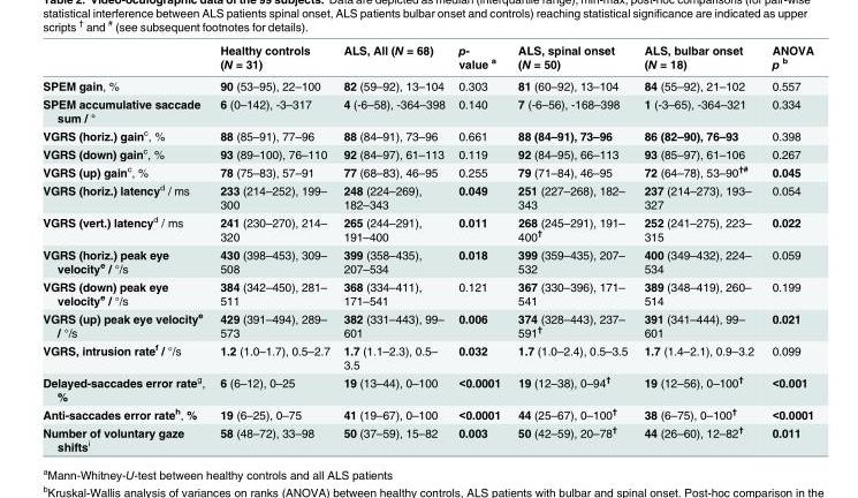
<table><thead><tr><td></td><td>Healthy controls (N = 31)</td><td>ALS, All (N = 68)</td><td>p- value <sup>a</sup></td><td>ALS, spinal onset (N = 50)</td><td>ALS, bulbar onset (N = 18)</td><td>ANOVA p <sup>b</sup></td></tr></thead><tbody><tr><td>SPEM gain, %</td><td>90 (53–95), 22–100</td><td>82 (59–92), 13–104</td><td>0.303</td><td>81 (60–92), 13–104</td><td>84 (55–92), 21–102</td><td>0.557</td></tr><tr><td>SPEM accumulative saccade sum / °</td><td>6 (0–142), -3–317</td><td>4 (-6–58), -364–398</td><td>0.140</td><td>7 (-6–56), -168–398</td><td>1 (-3–65), -364–321</td><td>0.334</td></tr><tr><td>VGRS (horiz.) gain<sup>c</sup>, %</td><td>88 (85–91), 77–96</td><td>88 (84–91), 73–96</td><td>0.661</td><td>88 (84–91), 73–96</td><td>86 (82–90), 76–93</td><td>0.398</td></tr><tr><td>VGRS (down) gain<sup>c</sup>, %</td><td>93 (89–100), 76–110</td><td>92 (84–97), 61–113</td><td>0.119</td><td>92 (84–95), 66–113</td><td>93 (85–97), 61–106</td><td>0.267</td></tr><tr><td>VGRS (up) gain<sup>c</sup>, %</td><td>78 (75–83), 57–91</td><td>77 (68–83), 46–95</td><td>0.255</td><td>79 (71–84), 46–95</td><td>72 (64–78), 53–90<sup>†#</sup></td><td>0.045</td></tr><tr><td>VGRS (horiz.) latency<sup>d</sup> / ms</td><td>233 (214–252), 199– 300</td><td>248 (224–269), 182–343</td><td>0.049</td><td>251 (227–268), 182– 343</td><td>237 (214–273), 193– 327</td><td>0.054</td></tr><tr><td>VGRS (vert.) latency<sup>d</sup> / ms</td><td>241 (230–270), 214– 320</td><td>265 (244–291), 191–400</td><td>0.011</td><td>268 (245–291), 191– 400<sup>†</sup></td><td>252 (241–275), 223– 315</td><td>0.022</td></tr><tr><td>VGRS (horiz.) peak eye velocity<sup>e</sup> / °/s</td><td>430 (398–453), 309– 508</td><td>399 (358–435), 207–534</td><td>0.018</td><td>399 (359–435), 207– 532</td><td>400 (349–432), 224– 534</td><td>0.059</td></tr><tr><td>VGRS (down) peak eye velocity<sup>e</sup> / °/s</td><td>384 (342–450), 281– 511</td><td>368 (334–411), 171–541</td><td>0.121</td><td>367 (330–396), 171– 541</td><td>389 (348–419), 260– 514</td><td>0.199</td></tr><tr><td>VGRS (up) peak eye velocity<sup>e</sup> / °/s</td><td>429 (391–494), 289– 573</td><td>382 (331–443), 99– 601</td><td>0.006</td><td>374 (328–443), 237– 591<sup>†</sup></td><td>391 (341–444), 99– 601</td><td>0.021</td></tr><tr><td>VGRS, intrusion rate<sup>f</sup> / °/s</td><td>1.2 (1.0–1.7), 0.5–2.7</td><td>1.7 (1.1–2.3), 0.5– 3.5</td><td>0.032</td><td>1.7 (1.0–2.4), 0.5–3.5</td><td>1.7 (1.4–2.1), 0.9–3.2</td><td>0.099</td></tr><tr><td>Delayed-saccades error rate<sup>g</sup>, %</td><td>6 (6–12), 0–25</td><td>19 (13–44), 0–100</td><td>&lt;0.0001</td><td>19 (12–38), 0–94<sup>†</sup></td><td>19 (12–56), 0–100<sup>†</sup></td><td>&lt;0.001</td></tr><tr><td>Anti-saccades error rate<sup>h</sup>, %</td><td>19 (6–25), 0–75</td><td>41 (19–67), 0–100</td><td>&lt;0.0001</td><td>44 (25–67), 0–100<sup>†</sup></td><td>38 (6–75), 0–100<sup>†</sup></td><td>&lt;0.0001</td></tr><tr><td>Number of voluntary gaze shifts<sup>i</sup></td><td>58 (48–72), 33–98</td><td>50 (37–59), 15–82</td><td>0.003</td><td>50 (42–59), 20–78<sup>†</sup></td><td>44 (26–60), 12–82<sup>†</sup></td><td>0.011</td></tr></tbody></table>